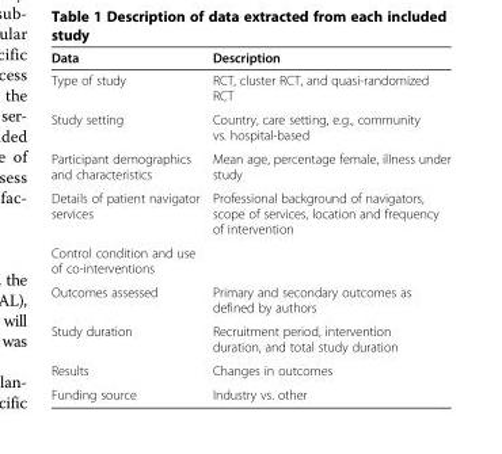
<table><thead><tr><td>Data</td><td>Description</td></tr></thead><tbody><tr><td>Type of study</td><td>RCT, cluster RCT, and quasi-randomized RCT</td></tr><tr><td>Study setting</td><td>Country, care setting, e.g., community vs. hospital-based</td></tr><tr><td>Participant demographics and characteristics</td><td>Mean age, percentage female, illness under study</td></tr><tr><td>Details of patient navigator services</td><td>Professional background of navigators, scope of services, location and frequency of intervention</td></tr><tr><td colspan="2">Control condition and use of co-interventions</td></tr><tr><td>Outcomes assessed</td><td>Primary and secondary outcomes as defined by authors</td></tr><tr><td>Study duration</td><td>Recruitment period, intervention duration, and total study duration</td></tr><tr><td>Results</td><td>Changes in outcomes</td></tr><tr><td>Funding source</td><td>Industry vs. other</td></tr></tbody></table>